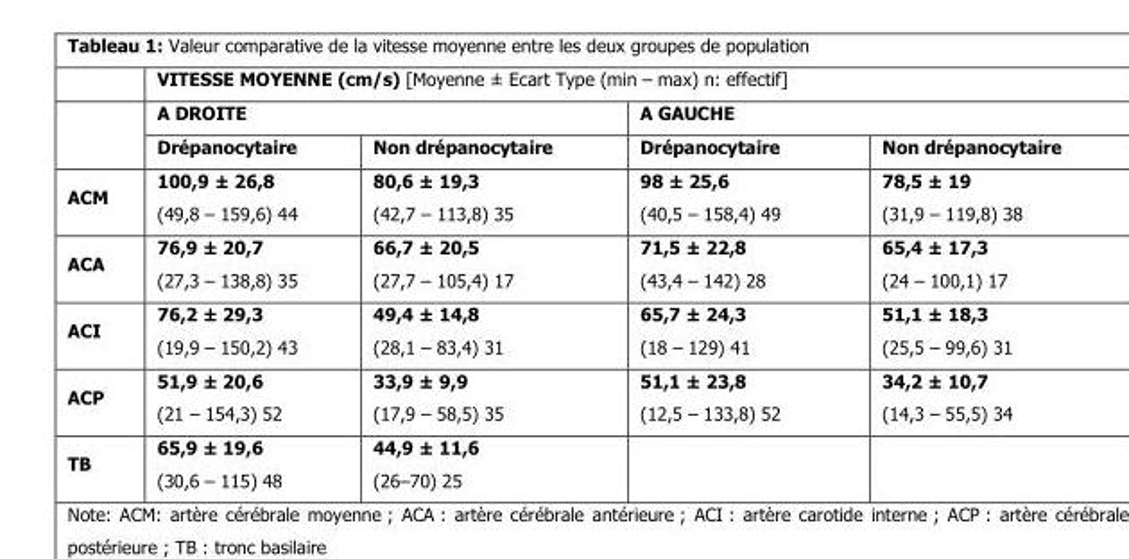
<table><thead><tr><td rowspan="3"></td><td colspan="4">VITESSE MOYENNE (cm/s) [Moyenne ± Ecart Type (min – max) n: effectif]</td></tr><tr><td colspan="2">A DROITE</td><td colspan="2">A GAUCHE</td></tr><tr><td>Drépanocytaire</td><td>Non drépanocytaire</td><td>Drépanocytaire</td><td>Non drépanocytaire</td></tr></thead><tbody><tr><td>ACM</td><td>100,9 ± 26,8 (49,8 – 159,6) 44</td><td>80,6 ± 19,3 (42,7 – 113,8) 35</td><td>98 ± 25,6 (40,5 – 158,4) 49</td><td>78,5 ± 19 (31,9 – 119,8) 38</td></tr><tr><td>ACA</td><td>76,9 ± 20,7 (27,3 – 138,8) 35</td><td>66,7 ± 20,5 (27,7 – 105,4) 17</td><td>71,5 ± 22,8 (43,4 – 142) 28</td><td>65,4 ± 17,3 (24 – 100,1) 17</td></tr><tr><td>ACI</td><td>76,2 ± 29,3 (19,9 – 150,2) 43</td><td>49,4 ± 14,8 (28,1 – 83,4) 31</td><td>65,7 ± 24,3 (18 – 129) 41</td><td>51,1 ± 18,3 (25,5 – 99,6) 31</td></tr><tr><td>ACP</td><td>51,9 ± 20,6 (21 – 154,3) 52</td><td>33,9 ± 9,9 (17,9 – 58,5) 35</td><td>51,1 ± 23,8 (12,5 – 133,8) 52</td><td>34,2 ± 10,7 (14,3 – 55,5) 34</td></tr><tr><td>TB</td><td>65,9 ± 19,6 (30,6 – 115) 48</td><td>44,9 ± 11,6 (26–70) 25</td><td></td><td></td></tr></tbody></table>